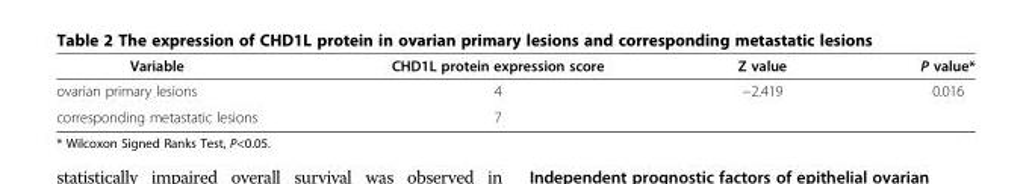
<table><thead><tr><td>Variable</td><td>CHD1L protein expression score</td><td>Z value</td><td>P value*</td></tr></thead><tbody><tr><td>ovarian primary lesions</td><td>4</td><td>−2.419</td><td>0.016</td></tr><tr><td>corresponding metastatic lesions</td><td>7</td><td></td><td></td></tr></tbody></table>